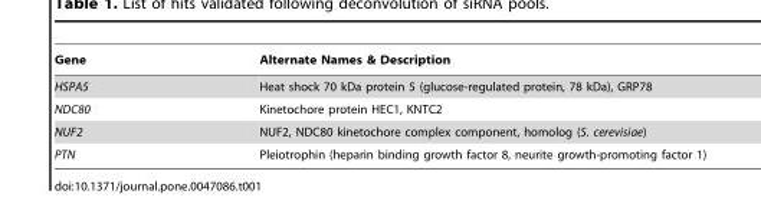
<table><thead><tr><td>Gene</td><td>Alternate Names &amp; Description</td></tr></thead><tbody><tr><td>HSPA5</td><td>Heat shock 70 kDa protein 5 (glucose-regulated protein, 78 kDa), GRP78</td></tr><tr><td>NDC80</td><td>Kinetochore protein HEC1, KNTC2</td></tr><tr><td>NUF2</td><td>NUF2, NDC80 kinetochore complex component, homolog (S. cerevisiae)</td></tr><tr><td>PTN</td><td>Pleiotrophin (heparin binding growth factor 8, neurite growth-promoting factor 1)</td></tr></tbody></table>